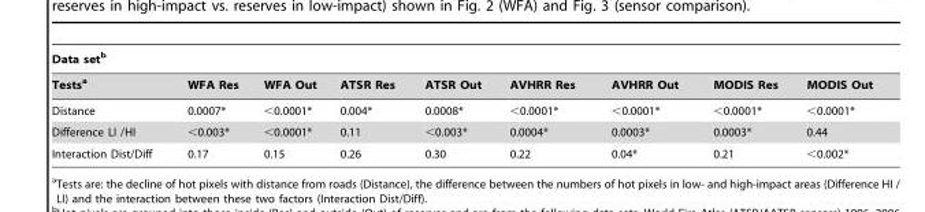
<table><thead><tr><td colspan="9">Data set<sup>b</sup></td></tr><tr><td>Tests<sup>a</sup></td><td>WFA Res</td><td>WFA Out</td><td>ATSR Res</td><td>ATSR Out</td><td>AVHRR Res</td><td>AVHRR Out</td><td>MODIS Res</td><td>MODIS Out</td></tr></thead><tbody><tr><td>Distance</td><td>0.0007*</td><td>&lt;0.0001*</td><td>0.004*</td><td>0.0008*</td><td>&lt;0.0001*</td><td>&lt;0.0001*</td><td>&lt;0.0001*</td><td>&lt;0.0001*</td></tr><tr><td>Difference LI /HI</td><td>&lt;0.003*</td><td>&lt;0.0001*</td><td>0.11</td><td>&lt;0.003*</td><td>0.0004*</td><td>0.0003*</td><td>0.0003*</td><td>0.44</td></tr><tr><td>Interaction Dist/Diff</td><td>0.17</td><td>0.15</td><td>0.26</td><td>0.30</td><td>0.22</td><td>0.04*</td><td>0.21</td><td>&lt;0.002*</td></tr></tbody></table>